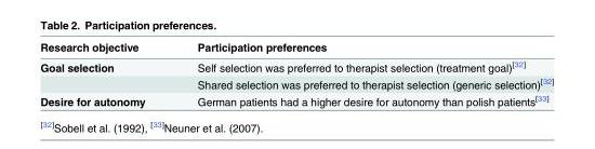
<table><thead><tr><td>Research objective</td><td>Participation preferences</td></tr></thead><tbody><tr><td rowspan="2">Goal selection</td><td>Self selection was preferred to therapist selection (treatment goal)<sup>[32]</sup></td></tr><tr><td>Shared selection was preferred to therapist selection (generic selection)<sup>[32]</sup></td></tr><tr><td>Desire for autonomy</td><td>German patients had a higher desire for autonomy than polish patients<sup>[33]</sup></td></tr></tbody></table>